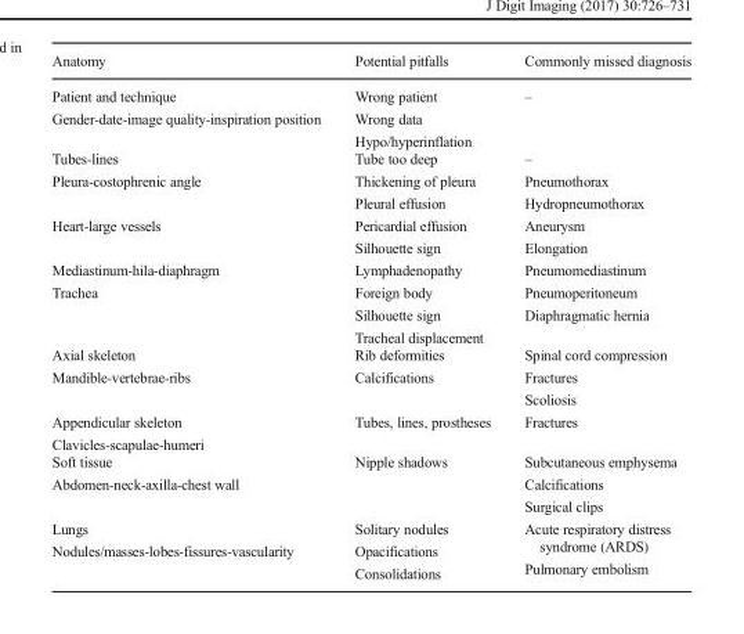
<table><thead><tr><td>Anatomy</td><td>Potential pitfalls</td><td>Commonly missed diagnosis</td></tr></thead><tbody><tr><td>Patient and technique Gender-date-image quality-inspiration position</td><td>Wrong patient Wrong data Hypo/hyperinflation</td><td>–</td></tr><tr><td>Tubes-lines</td><td>Tube too deep</td><td>–</td></tr><tr><td>Pleura-costophrenic angle</td><td>Thickening of pleura Pleural effusion</td><td>Pneumothorax Hydropneumothorax</td></tr><tr><td>Heart-large vessels</td><td>Pericardial effusion Silhouette sign</td><td>Aneurysm Elongation</td></tr><tr><td>Mediastinum-hila-diaphragm Trachea</td><td>Lymphadenopathy Foreign body Silhouette sign Tracheal displacement</td><td>Pneumomediastinum Pneumoperitoneum Diaphragmatic hernia</td></tr><tr><td>Axial skeleton Mandible-vertebrae-ribs</td><td>Rib deformities Calcifications</td><td>Spinal cord compression Fractures Scoliosis</td></tr><tr><td>Appendicular skeleton Clavicles-scapulae-humeri</td><td>Tubes, lines, prostheses</td><td>Fractures</td></tr><tr><td>Soft tissue Abdomen-neck-axilla-chest wall</td><td>Nipple shadows</td><td>Subcutaneous emphysema Calcifications Surgical clips</td></tr><tr><td>Lungs Nodules/masses-lobes-fissures-vascularity</td><td>Solitary nodules Opacifications Consolidations</td><td>Acute respiratory distress syndrome (ARDS) Pulmonary embolism</td></tr></tbody></table>